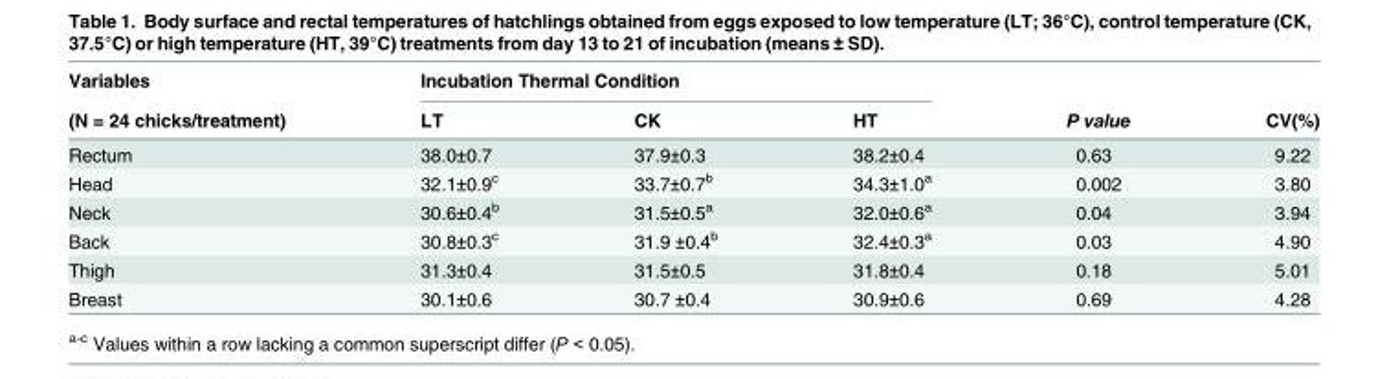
<table><thead><tr><td rowspan="2">Variables (N = 24 chicks/treatment)</td><td colspan="3">Incubation Thermal Condition</td><td rowspan="2">P value</td><td rowspan="2">CV(%)</td></tr><tr><td>LT</td><td>CK</td><td>HT</td></tr></thead><tbody><tr><td>Rectum</td><td>38.0±0.7</td><td>37.9±0.3</td><td>38.2±0.4</td><td>0.63</td><td>9.22</td></tr><tr><td>Head</td><td>32.1±0.9<sup>c</sup></td><td>33.7±0.7<sup>b</sup></td><td>34.3±1.0<sup>a</sup></td><td>0.002</td><td>3.80</td></tr><tr><td>Neck</td><td>30.6±0.4<sup>b</sup></td><td>31.5±0.5<sup>a</sup></td><td>32.0±0.6<sup>a</sup></td><td>0.04</td><td>3.94</td></tr><tr><td>Back</td><td>30.8±0.3<sup>c</sup></td><td>31.9 ±0.4<sup>b</sup></td><td>32.4±0.3<sup>a</sup></td><td>0.03</td><td>4.90</td></tr><tr><td>Thigh</td><td>31.3±0.4</td><td>31.5±0.5</td><td>31.8±0.4</td><td>0.18</td><td>5.01</td></tr><tr><td>Breast</td><td>30.1±0.6</td><td>30.7 ±0.4</td><td>30.9±0.6</td><td>0.69</td><td>4.28</td></tr></tbody></table>